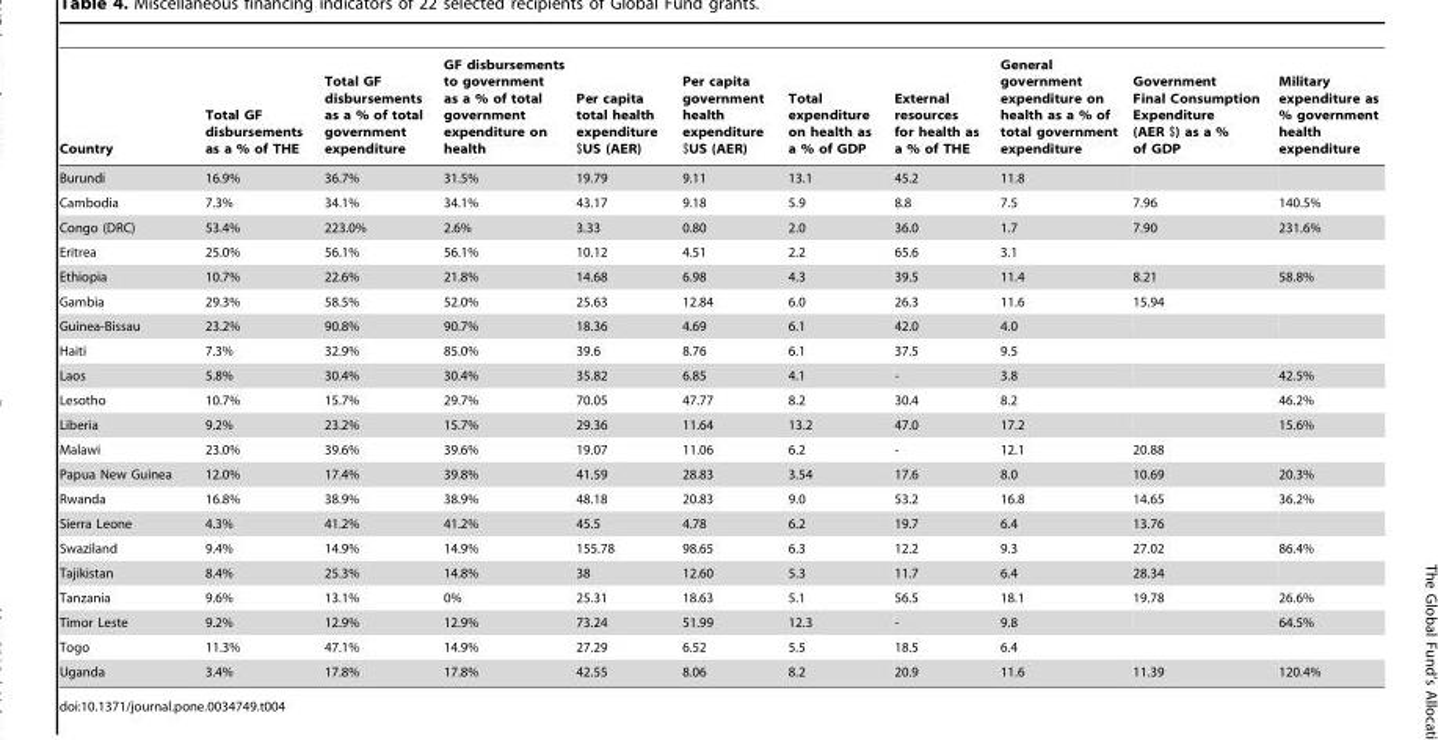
<table><thead><tr><td>Country</td><td>Total GF disbursements as a % of THE</td><td>Total GF disbursements as a % of total government expenditure</td><td>GF disbursements to government as a % of total government expenditure on health</td><td>Per capita total health expenditure $US (AER)</td><td>Per capita government health expenditure $US (AER)</td><td>Total expenditure on health as a % of GDP</td><td>External resources for health as a % of THE</td><td>General government expenditure on health as a % of total government expenditure</td><td>Government Final Consumption Expenditure (AER $) as a % of GDP</td><td>Military expenditure as % government health expenditure</td></tr></thead><tbody><tr><td>Burundi</td><td>16.9%</td><td>36.7%</td><td>31.5%</td><td>19.79</td><td>9.11</td><td>13.1</td><td>45.2</td><td>11.8</td><td></td><td></td></tr><tr><td>Cambodia</td><td>7.3%</td><td>34.1%</td><td>34.1%</td><td>43.17</td><td>9.18</td><td>5.9</td><td>8.8</td><td>7.5</td><td>7.96</td><td>140.5%</td></tr><tr><td>Congo (DRC)</td><td>53.4%</td><td>223.0%</td><td>2.6%</td><td>3.33</td><td>0.80</td><td>2.0</td><td>36.0</td><td>1.7</td><td>7.90</td><td>231.6%</td></tr><tr><td>Eritrea</td><td>25.0%</td><td>56.1%</td><td>56.1%</td><td>10.12</td><td>4.51</td><td>2.2</td><td>65.6</td><td>3.1</td><td></td><td></td></tr><tr><td>Ethiopia</td><td>10.7%</td><td>22.6%</td><td>21.8%</td><td>14.68</td><td>6.98</td><td>4.3</td><td>39.5</td><td>11.4</td><td>8.21</td><td>58.8%</td></tr><tr><td>Gambia</td><td>29.3%</td><td>58.5%</td><td>52.0%</td><td>25.63</td><td>12.84</td><td>6.0</td><td>26.3</td><td>11.6</td><td>15.94</td><td></td></tr><tr><td>Guinea-Bissau</td><td>23.2%</td><td>90.8%</td><td>90.7%</td><td>18.36</td><td>4.69</td><td>6.1</td><td>42.0</td><td>4.0</td><td></td><td></td></tr><tr><td>Haiti</td><td>7.3%</td><td>32.9%</td><td>85.0%</td><td>39.6</td><td>8.76</td><td>6.1</td><td>37.5</td><td>9.5</td><td></td><td></td></tr><tr><td>Laos</td><td>5.8%</td><td>30.4%</td><td>30.4%</td><td>35.82</td><td>6.85</td><td>4.1</td><td>-</td><td>3.8</td><td></td><td>42.5%</td></tr><tr><td>Lesotho</td><td>10.7%</td><td>15.7%</td><td>29.7%</td><td>70.05</td><td>47.77</td><td>8.2</td><td>30.4</td><td>8.2</td><td></td><td>46.2%</td></tr><tr><td>Liberia</td><td>9.2%</td><td>23.2%</td><td>15.7%</td><td>29.36</td><td>11.64</td><td>13.2</td><td>47.0</td><td>17.2</td><td></td><td>15.6%</td></tr><tr><td>Malawi</td><td>23.0%</td><td>39.6%</td><td>39.6%</td><td>19.07</td><td>11.06</td><td>6.2</td><td>-</td><td>12.1</td><td>20.88</td><td></td></tr><tr><td>Papua New Guinea</td><td>12.0%</td><td>17.4%</td><td>39.8%</td><td>41.59</td><td>28.83</td><td>3.54</td><td>17.6</td><td>8.0</td><td>10.69</td><td>20.3%</td></tr><tr><td>Rwanda</td><td>16.8%</td><td>38.9%</td><td>38.9%</td><td>48.18</td><td>20.83</td><td>9.0</td><td>53.2</td><td>16.8</td><td>14.65</td><td>36.2%</td></tr><tr><td>Sierra Leone</td><td>4.3%</td><td>41.2%</td><td>41.2%</td><td>45.5</td><td>4.78</td><td>6.2</td><td>19.7</td><td>6.4</td><td>13.76</td><td></td></tr><tr><td>Swaziland</td><td>9.4%</td><td>14.9%</td><td>14.9%</td><td>155.78</td><td>98.65</td><td>6.3</td><td>12.2</td><td>9.3</td><td>27.02</td><td>86.4%</td></tr><tr><td>Tajikistan</td><td>8.4%</td><td>25.3%</td><td>14.8%</td><td>38</td><td>12.60</td><td>5.3</td><td>11.7</td><td>6.4</td><td>28.34</td><td></td></tr><tr><td>Tanzania</td><td>9.6%</td><td>13.1%</td><td>0%</td><td>25.31</td><td>18.63</td><td>5.1</td><td>56.5</td><td>18.1</td><td>19.78</td><td>26.6%</td></tr><tr><td>Timor Leste</td><td>9.2%</td><td>12.9%</td><td>12.9%</td><td>73.24</td><td>51.99</td><td>12.3</td><td>-</td><td>9.8</td><td></td><td>64.5%</td></tr><tr><td>Togo</td><td>11.3%</td><td>47.1%</td><td>14.9%</td><td>27.29</td><td>6.52</td><td>5.5</td><td>18.5</td><td>6.4</td><td></td><td></td></tr><tr><td>Uganda</td><td>3.4%</td><td>17.8%</td><td>17.8%</td><td>42.55</td><td>8.06</td><td>8.2</td><td>20.9</td><td>11.6</td><td>11.39</td><td>120.4%</td></tr></tbody></table>